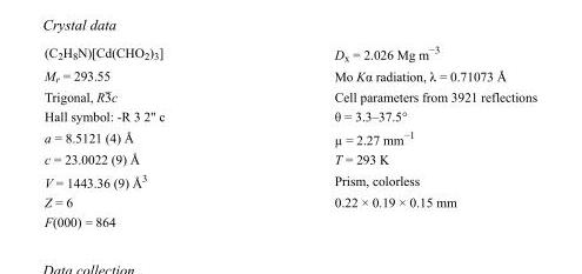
<table><tbody><tr><td>(C<sub>2</sub>H<sub>8</sub>N)[Cd(CHO<sub>2</sub>)<sub>3</sub>]</td><td>D<sub>x</sub> = 2.026 Mg m<sup>−3</sup></td></tr><tr><td>M<sub>r</sub> = 293.55</td><td>Mo Kα radiation, λ = 0.71073 Å</td></tr><tr><td>Trigonal, R3c</td><td>Cell parameters from 3921 reflections</td></tr><tr><td>Hall symbol: -R 3 2&quot; c</td><td>θ = 3.3–37.5°</td></tr><tr><td>a = 8.5121 (4) Å</td><td>µ = 2.27 mm<sup>−1</sup></td></tr><tr><td>c = 23.0022 (9) Å</td><td>T = 293 K</td></tr><tr><td>V = 1443.36 (9) Å<sup>3</sup></td><td>Prism, colorless</td></tr><tr><td>Z = 6</td><td>0.22 × 0.19 × 0.15 mm</td></tr><tr><td>F(000) = 864</td><td></td></tr></tbody></table>